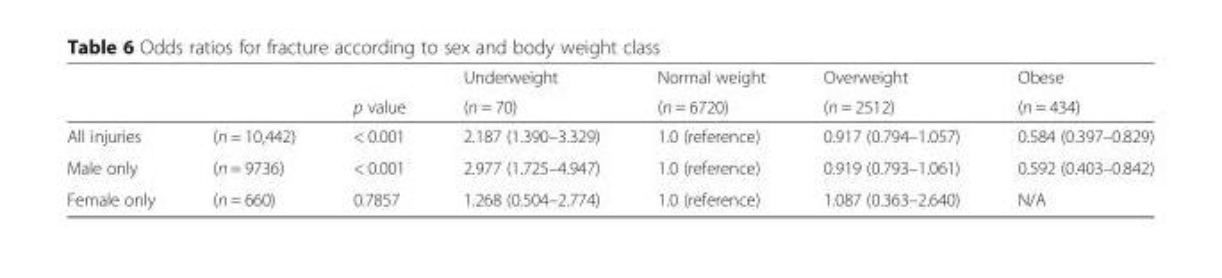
<table><thead><tr><td rowspan="2"></td><td rowspan="2"></td><td rowspan="2">p value</td><td rowspan="2">Underweight (n = 70)</td><td rowspan="2">Normal weight (n = 6720)</td><td rowspan="2">Overweight (n = 2512)</td><td rowspan="2">Obese (n = 434)</td></tr><tr></tr></thead><tbody><tr><td>All injuries</td><td>(n = 10,442)</td><td>&lt; 0.001</td><td>2.187 (1.390–3.329)</td><td>1.0 (reference)</td><td>0.917 (0.794–1.057)</td><td>0.584 (0.397–0.829)</td></tr><tr><td>Male only</td><td>(n = 9736)</td><td>&lt; 0.001</td><td>2.977 (1.725–4.947)</td><td>1.0 (reference)</td><td>0.919 (0.793–1.061)</td><td>0.592 (0.403–0.842)</td></tr><tr><td>Female only</td><td>(n = 660)</td><td>0.7857</td><td>1.268 (0.504–2.774)</td><td>1.0 (reference)</td><td>1.087 (0.363–2.640)</td><td>N/A</td></tr></tbody></table>